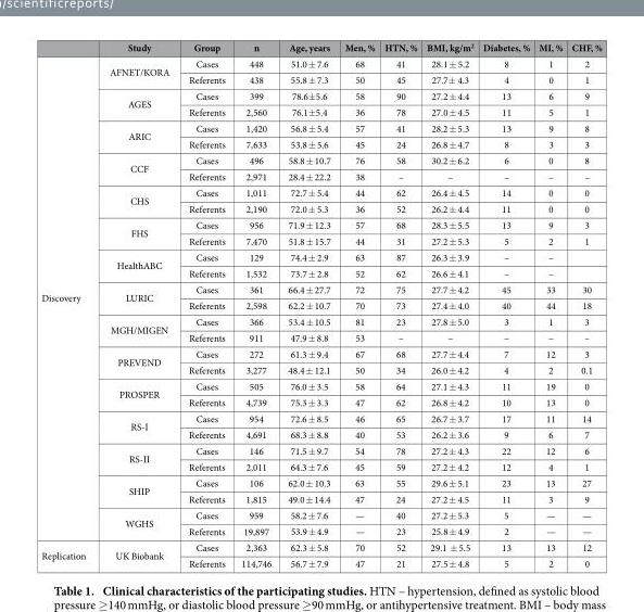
<table><thead><tr><td></td><td>Study</td><td>Group</td><td>n</td><td>Age, years</td><td>Men, %</td><td>HTN, %</td><td>BMI, kg/m<sup>2</sup></td><td>Diabetes, %</td><td>MI, %</td><td>CHF, %</td></tr></thead><tbody><tr><td rowspan="30">Discovery</td><td rowspan="2">AFNET/KORA</td><td>Cases</td><td>448</td><td>51.0 ± 7.6</td><td>68</td><td>41</td><td>28.1 ± 5.2</td><td>8</td><td>1</td><td>2</td></tr><tr><td>Referents</td><td>438</td><td>55.8 ± 7.3</td><td>50</td><td>45</td><td>27.7± 4.3</td><td>4</td><td>0</td><td>1</td></tr><tr><td rowspan="2">AGES</td><td>Cases</td><td>399</td><td>78.6± 5.6</td><td>58</td><td>90</td><td>27.2 ± 4.4</td><td>13</td><td>6</td><td>9</td></tr><tr><td>Referents</td><td>2,560</td><td>76.1± 5.4</td><td>36</td><td>78</td><td>27.0 ± 4.5</td><td>11</td><td>5</td><td>1</td></tr><tr><td rowspan="2">ARIC</td><td>Cases</td><td>1,420</td><td>56.8 ± 5.4</td><td>57</td><td>41</td><td>28.2 ± 5.3</td><td>13</td><td>9</td><td>8</td></tr><tr><td>Referents</td><td>7,633</td><td>53.8 ± 5.6</td><td>45</td><td>24</td><td>26.8 ± 4.7</td><td>8</td><td>3</td><td>3</td></tr><tr><td rowspan="2">CCF</td><td>Cases</td><td>496</td><td>58.8 ± 10.7</td><td>76</td><td>58</td><td>30.2 ± 6.2</td><td>6</td><td>0</td><td>8</td></tr><tr><td>Referents</td><td>2,971</td><td>28.4 ± 22.2</td><td>38</td><td>–</td><td>–</td><td>–</td><td>–</td><td>–</td></tr><tr><td rowspan="2">CHS</td><td>Cases</td><td>1,011</td><td>72.7 ± 5.4</td><td>44</td><td>62</td><td>26.4 ± 4.5</td><td>14</td><td>0</td><td>0</td></tr><tr><td>Referents</td><td>2,190</td><td>72.0 ± 5.3</td><td>36</td><td>52</td><td>26.2 ± 4.4</td><td>11</td><td>0</td><td>0</td></tr><tr><td rowspan="2">FHS</td><td>Cases</td><td>956</td><td>71.9 ± 12.3</td><td>57</td><td>68</td><td>28.3 ± 5.5</td><td>13</td><td>9</td><td>3</td></tr><tr><td>Referents</td><td>7,470</td><td>51.8 ± 15.7</td><td>44</td><td>31</td><td>27.2 ± 5.3</td><td>5</td><td>2</td><td>1</td></tr><tr><td rowspan="2">HealthABC</td><td>Cases</td><td>129</td><td>74.4 ± 2.9</td><td>63</td><td>87</td><td>26.3 ± 3.9</td><td>–</td><td>–</td><td></td></tr><tr><td>Referents</td><td>1,532</td><td>73.7 ± 2.8</td><td>52</td><td>62</td><td>26.6 ± 4.1</td><td>–</td><td>–</td><td></td></tr><tr><td rowspan="2">LURIC</td><td>Cases</td><td>361</td><td>66.4 ± 27.7</td><td>72</td><td>75</td><td>27.7 ± 4.2</td><td>45</td><td>33</td><td>30</td></tr><tr><td>Referents</td><td>2,598</td><td>62.2 ± 10.7</td><td>70</td><td>73</td><td>27.4 ± 4.0</td><td>40</td><td>44</td><td>18</td></tr><tr><td rowspan="2">MGH/MIGEN</td><td>Cases</td><td>366</td><td>53.4 ± 10.5</td><td>81</td><td>23</td><td>27.8 ± 5.0</td><td>3</td><td>1</td><td>3</td></tr><tr><td>Referents</td><td>911</td><td>47.9 ± 8.8</td><td>53</td><td>–</td><td>–</td><td>–</td><td>–</td><td>–</td></tr><tr><td rowspan="2">PREVEND</td><td>Cases</td><td>272</td><td>61.3 ± 9.4</td><td>67</td><td>68</td><td>27.7 ± 4.4</td><td>7</td><td>12</td><td>3</td></tr><tr><td>Referents</td><td>3,277</td><td>48.4 ± 12.1</td><td>50</td><td>34</td><td>26.0 ± 4.2</td><td>4</td><td>2</td><td>0.1</td></tr><tr><td rowspan="2">PROSPER</td><td>Cases</td><td>505</td><td>76.0 ± 3.5</td><td>58</td><td>64</td><td>27.1 ± 4.3</td><td>11</td><td>19</td><td>0</td></tr><tr><td>Referents</td><td>4,739</td><td>75.3 ± 3.3</td><td>47</td><td>62</td><td>26.8 ± 4.2</td><td>10</td><td>13</td><td>0</td></tr><tr><td rowspan="2">RS-I</td><td>Cases</td><td>954</td><td>72.6 ± 8.5</td><td>46</td><td>65</td><td>26.7 ± 3.7</td><td>17</td><td>11</td><td>14</td></tr><tr><td>Referents</td><td>4,691</td><td>68.3 ± 8.8</td><td>40</td><td>53</td><td>26.2 ± 3.6</td><td>9</td><td>6</td><td>7</td></tr><tr><td rowspan="2">RS-II</td><td>Cases</td><td>146</td><td>71.5 ± 9.7</td><td>54</td><td>78</td><td>27.2 ± 4.3</td><td>22</td><td>12</td><td>6</td></tr><tr><td>Referents</td><td>2,011</td><td>64.3 ± 7.6</td><td>45</td><td>59</td><td>27.2 ± 4.2</td><td>12</td><td>4</td><td>1</td></tr><tr><td rowspan="2">SHIP</td><td>Cases</td><td>106</td><td>62.0 ± 10.3</td><td>63</td><td>55</td><td>29.6 ± 5.1</td><td>23</td><td>13</td><td>27</td></tr><tr><td>Referents</td><td>1,815</td><td>49.0 ± 14.4</td><td>47</td><td>24</td><td>27.2 ± 4.5</td><td>11</td><td>3</td><td>9</td></tr><tr><td rowspan="2">WGHS</td><td>Cases</td><td>959</td><td>58.2 ± 7.6</td><td>—</td><td>40</td><td>27.2 ± 5.3</td><td>5</td><td>—</td><td>—</td></tr><tr><td>Referents</td><td>19,897</td><td>53.9 ± 4.9</td><td>—</td><td>23</td><td>25.8 ± 4.9</td><td>2</td><td>—</td><td>—</td></tr><tr><td rowspan="2">Replication</td><td rowspan="2">UK Biobank</td><td>Cases</td><td>2,363</td><td>62.3 ± 5.8</td><td>70</td><td>52</td><td>29.1 ± 5.5</td><td>13</td><td>13</td><td>12</td></tr><tr><td>Referents</td><td>114,746</td><td>56.7 ± 7.9</td><td>47</td><td>21</td><td>27.5 ± 4.8</td><td>5</td><td>2</td><td>0</td></tr></tbody></table>